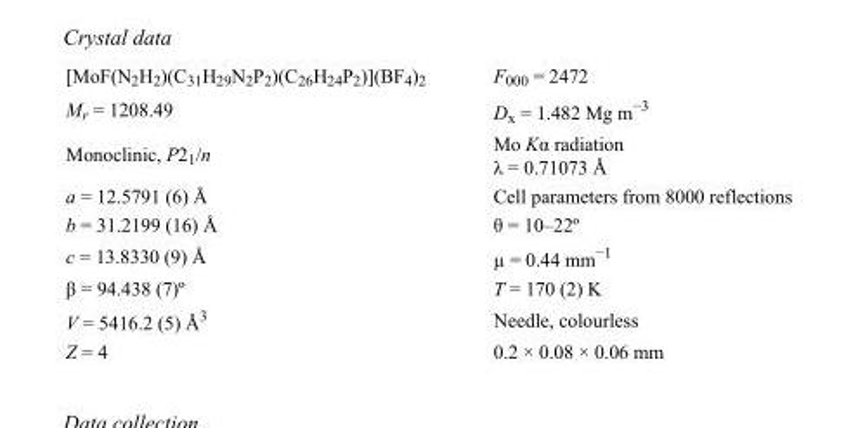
<table><tbody><tr><td>[MoF(N<sub>2</sub>H<sub>2</sub>)(C<sub>31</sub>H<sub>29</sub>N<sub>2</sub>P<sub>2</sub>)(C<sub>26</sub>H<sub>24</sub>P<sub>2</sub>)](BF<sub>4</sub>)<sub>2</sub></td><td>F<sub>000</sub> = 2472</td></tr><tr><td>M<sub>r</sub> = 1208.49</td><td>D<sub>x</sub> = 1.482 Mg m<sup>−3</sup></td></tr><tr><td>Monoclinic, P2<sub>1</sub>/n</td><td>Mo Kα radiation λ = 0.71073 Å</td></tr><tr><td>a = 12.5791 (6) Å</td><td>Cell parameters from 8000 reflections</td></tr><tr><td>b = 31.2199 (16) Å</td><td>θ = 10–22º</td></tr><tr><td>c = 13.8330 (9) Å</td><td>µ = 0.44 mm<sup>−1</sup></td></tr><tr><td>β = 94.438 (7)º</td><td>T = 170 (2) K</td></tr><tr><td>V = 5416.2 (5) Å<sup>3</sup></td><td>Needle, colourless</td></tr><tr><td>Z = 4</td><td>0.2 × 0.08 × 0.06 mm</td></tr></tbody></table>